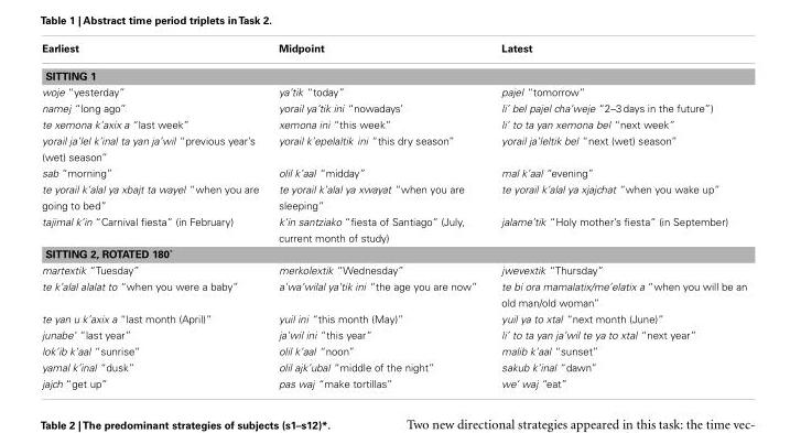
<table><thead><tr><td>Earliest</td><td>Midpoint</td><td>Latest</td></tr></thead><tbody><tr><td colspan="3">SITTING 1</td></tr><tr><td>woje “yesterday”</td><td>ya’tik “today”</td><td>pajel “tomorrow”</td></tr><tr><td>namej “long ago”</td><td>yorail ya’tik ini “nowadays’</td><td>li’ bel pajel cha’weje “2–3 days in the future”)</td></tr><tr><td>te xemona k’axix a “last week”</td><td>xemona ini “this week”</td><td>li’ to ta yan xemona bel “next week”</td></tr><tr><td>yorail ja’lel k’inal ta yan ja’wil “previous year’s (wet) season”</td><td>yorail k’epelaltik ini “this dry season”</td><td>yorail ja’leltik bel “next (wet) season”</td></tr><tr><td>sab “morning”</td><td>olil k’aal “midday”</td><td>mal k’aal “evening”</td></tr><tr><td>te yorail k’alal ya xbajt ta wayel “when you are going to bed”</td><td>te yorail k’alal ya xwayat “when you are sleeping”</td><td>te yorail k’alal ya xjajchat “when you wake up”</td></tr><tr><td>tajimal k’in “Carnival fiesta” (in February)</td><td>k’in santziako “fiesta of Santiago” (July, current month of study)</td><td>jalame’tik “Holy mother’s fiesta” (in September)</td></tr><tr><td colspan="3">SITTING 2, ROTATED 180˚</td></tr><tr><td>martextik “Tuesday”</td><td>merkolextik “Wednesday”</td><td>jwevextik “Thursday”</td></tr><tr><td>te k’alal alalat to “when you were a baby”</td><td>a’wa’wilal ya’tik ini “the age you are now”</td><td>te bi ora mamalatix/me’elatix a “when you will be an old man/old woman”</td></tr><tr><td>te yan u k’axix a “last month (April)”</td><td>yuil ini “this month (May)”</td><td>yuil ya to xtal “next month (June)”</td></tr><tr><td>junabe’ “last year”</td><td>ja’wil ini “this year”</td><td>li’ to ta yan ja’wil te ya to xtal “next year”</td></tr><tr><td>lok’ib k’aal “sunrise”</td><td>olil k’aal “noon”</td><td>malib k’aal “sunset”</td></tr><tr><td>yamal k’inal “dusk”</td><td>olil ajk’ubal “middle of the night”</td><td>sakub k’inal “dawn”</td></tr><tr><td>jajch “get up”</td><td>pas waj “make tortillas”</td><td>we’ waj “eat”</td></tr></tbody></table>